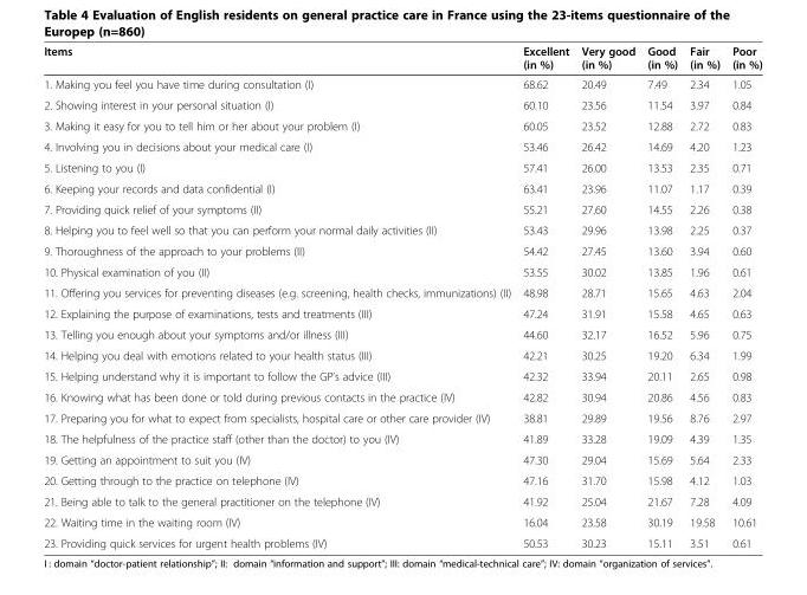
<table><thead><tr><td>Items</td><td>Excellent (in %)</td><td>Very good (in %)</td><td>Good (in %)</td><td>Fair (in %)</td><td>Poor (in %)</td></tr></thead><tbody><tr><td>1. Making you feel you have time during consultation (I)</td><td>68.62</td><td>20.49</td><td>7.49</td><td>2.34</td><td>1.05</td></tr><tr><td>2. Showing interest in your personal situation (I)</td><td>60.10</td><td>23.56</td><td>11.54</td><td>3.97</td><td>0.84</td></tr><tr><td>3. Making it easy for you to tell him or her about your problem (I)</td><td>60.05</td><td>23.52</td><td>12.88</td><td>2.72</td><td>0.83</td></tr><tr><td>4. Involving you in decisions about your medical care (I)</td><td>53.46</td><td>26.42</td><td>14.69</td><td>4.20</td><td>1.23</td></tr><tr><td>5. Listening to you (I)</td><td>57.41</td><td>26.00</td><td>13.53</td><td>2.35</td><td>0.71</td></tr><tr><td>6. Keeping your records and data confidential (I)</td><td>63.41</td><td>23.96</td><td>11.07</td><td>1.17</td><td>0.39</td></tr><tr><td>7. Providing quick relief of your symptoms (II)</td><td>55.21</td><td>27.60</td><td>14.55</td><td>2.26</td><td>0.38</td></tr><tr><td>8. Helping you to feel well so that you can perform your normal daily activities (II)</td><td>53.43</td><td>29.96</td><td>13.98</td><td>2.25</td><td>0.37</td></tr><tr><td>9. Thoroughness of the approach to your problems (II)</td><td>54.42</td><td>27.45</td><td>13.60</td><td>3.94</td><td>0.60</td></tr><tr><td>10. Physical examination of you (II)</td><td>53.55</td><td>30.02</td><td>13.85</td><td>1.96</td><td>0.61</td></tr><tr><td>11. Offering you services for preventing diseases (e.g. screening, health checks, immunizations) (II)</td><td>48.98</td><td>28.71</td><td>15.65</td><td>4.63</td><td>2.04</td></tr><tr><td>12. Explaining the purpose of examinations, tests and treatments (III)</td><td>47.24</td><td>31.91</td><td>15.58</td><td>4.65</td><td>0.63</td></tr><tr><td>13. Telling you enough about your symptoms and/or illness (III)</td><td>44.60</td><td>32.17</td><td>16.52</td><td>5.96</td><td>0.75</td></tr><tr><td>14. Helping you deal with emotions related to your health status (III)</td><td>42.21</td><td>30.25</td><td>19.20</td><td>6.34</td><td>1.99</td></tr><tr><td>15. Helping understand why it is important to follow the GP’s advice (III)</td><td>42.32</td><td>33.94</td><td>20.11</td><td>2.65</td><td>0.98</td></tr><tr><td>16. Knowing what has been done or told during previous contacts in the practice (IV)</td><td>42.82</td><td>30.94</td><td>20.86</td><td>4.56</td><td>0.83</td></tr><tr><td>17. Preparing you for what to expect from specialists, hospital care or other care provider (IV)</td><td>38.81</td><td>29.89</td><td>19.56</td><td>8.76</td><td>2.97</td></tr><tr><td>18. The helpfulness of the practice staff (other than the doctor) to you (IV)</td><td>41.89</td><td>33.28</td><td>19.09</td><td>4.39</td><td>1.35</td></tr><tr><td>19. Getting an appointment to suit you (IV)</td><td>47.30</td><td>29.04</td><td>15.69</td><td>5.64</td><td>2.33</td></tr><tr><td>20. Getting through to the practice on telephone (IV)</td><td>47.16</td><td>31.70</td><td>15.98</td><td>4.12</td><td>1.03</td></tr><tr><td>21. Being able to talk to the general practitioner on the telephone (IV)</td><td>41.92</td><td>25.04</td><td>21.67</td><td>7.28</td><td>4.09</td></tr><tr><td>22. Waiting time in the waiting room (IV)</td><td>16.04</td><td>23.58</td><td>30.19</td><td>19.58</td><td>10.61</td></tr><tr><td>23. Providing quick services for urgent health problems (IV)</td><td>50.53</td><td>30.23</td><td>15.11</td><td>3.51</td><td>0.61</td></tr></tbody></table>